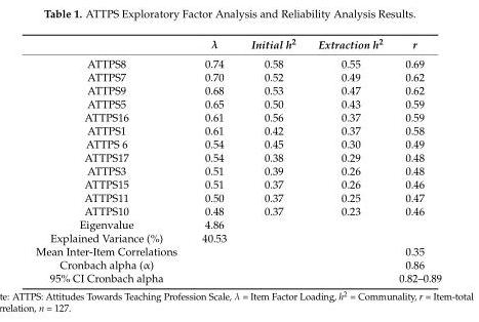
<table><thead><tr><td></td><td>λ</td><td>Initial h<sup>2</sup></td><td>Extraction h<sup>2</sup></td><td>r</td></tr></thead><tbody><tr><td>ATTPS8</td><td>0.74</td><td>0.58</td><td>0.55</td><td>0.69</td></tr><tr><td>ATTPS7</td><td>0.70</td><td>0.52</td><td>0.49</td><td>0.62</td></tr><tr><td>ATTPS9</td><td>0.68</td><td>0.53</td><td>0.47</td><td>0.62</td></tr><tr><td>ATTPS5</td><td>0.65</td><td>0.50</td><td>0.43</td><td>0.59</td></tr><tr><td>ATTPS16</td><td>0.61</td><td>0.56</td><td>0.37</td><td>0.59</td></tr><tr><td>ATTPS1</td><td>0.61</td><td>0.42</td><td>0.37</td><td>0.58</td></tr><tr><td>ATTPS 6</td><td>0.54</td><td>0.45</td><td>0.30</td><td>0.49</td></tr><tr><td>ATTPS17</td><td>0.54</td><td>0.38</td><td>0.29</td><td>0.48</td></tr><tr><td>ATTPS3</td><td>0.51</td><td>0.39</td><td>0.26</td><td>0.48</td></tr><tr><td>ATTPS15</td><td>0.51</td><td>0.37</td><td>0.26</td><td>0.46</td></tr><tr><td>ATTPS11</td><td>0.50</td><td>0.37</td><td>0.25</td><td>0.47</td></tr><tr><td>ATTPS10</td><td>0.48</td><td>0.37</td><td>0.23</td><td>0.46</td></tr><tr><td>Eigenvalue</td><td>4.86</td><td></td><td></td><td></td></tr><tr><td>Explained Variance (%)</td><td>40.53</td><td></td><td></td><td></td></tr><tr><td>Mean Inter-Item Correlations</td><td></td><td></td><td></td><td>0.35</td></tr><tr><td>Cronbach alpha (α)</td><td></td><td></td><td></td><td>0.86</td></tr><tr><td>95% CI Cronbach alpha</td><td></td><td></td><td></td><td>0.82–0.89</td></tr></tbody></table>